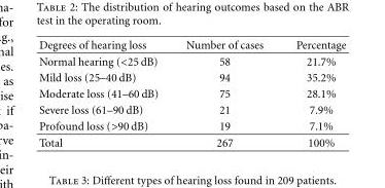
<table><thead><tr><td>Degrees of hearing loss</td><td>Number of cases</td><td>Percentage</td></tr></thead><tbody><tr><td>Normal hearing (&lt;25 dB)</td><td>58</td><td>21.7%</td></tr><tr><td>Mild loss (25–40 dB)</td><td>94</td><td>35.2%</td></tr><tr><td>Moderate loss (41–60 dB)</td><td>75</td><td>28.1%</td></tr><tr><td>Severe loss (61–90 dB)</td><td>21</td><td>7.9%</td></tr><tr><td>Profound loss (&gt;90 dB)</td><td>19</td><td>7.1%</td></tr><tr><td>Total</td><td>267</td><td>100%</td></tr></tbody></table>